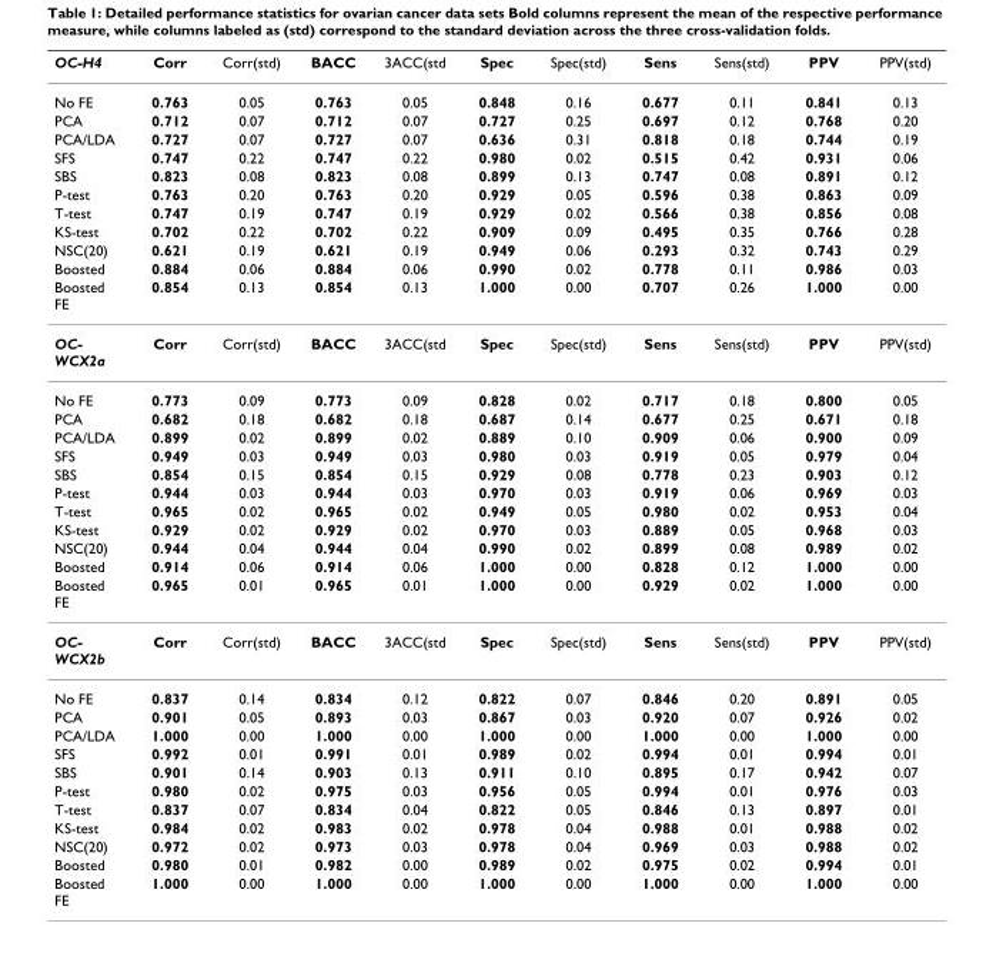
<table><thead><tr><td>OC-H4</td><td>Corr</td><td>Corr(std)</td><td>BACC</td><td>3ACC(std</td><td>Spec</td><td>Spec(std)</td><td>Sens</td><td>Sens(std)</td><td>PPV</td><td>PPV(std)</td></tr></thead><tbody><tr><td>No FE</td><td>0.763</td><td>0.05</td><td>0.763</td><td>0.05</td><td>0.848</td><td>0.16</td><td>0.677</td><td>0.11</td><td>0.841</td><td>0.13</td></tr><tr><td>PCA</td><td>0.712</td><td>0.07</td><td>0.712</td><td>0.07</td><td>0.727</td><td>0.25</td><td>0.697</td><td>0.12</td><td>0.768</td><td>0.20</td></tr><tr><td>PCA/LDA</td><td>0.727</td><td>0.07</td><td>0.727</td><td>0.07</td><td>0.636</td><td>0.31</td><td>0.818</td><td>0.18</td><td>0.744</td><td>0.19</td></tr><tr><td>SFS</td><td>0.747</td><td>0.22</td><td>0.747</td><td>0.22</td><td>0.980</td><td>0.02</td><td>0.515</td><td>0.42</td><td>0.931</td><td>0.06</td></tr><tr><td>SBS</td><td>0.823</td><td>0.08</td><td>0.823</td><td>0.08</td><td>0.899</td><td>0.13</td><td>0.747</td><td>0.08</td><td>0.891</td><td>0.12</td></tr><tr><td>P-test</td><td>0.763</td><td>0.20</td><td>0.763</td><td>0.20</td><td>0.929</td><td>0.05</td><td>0.596</td><td>0.38</td><td>0.863</td><td>0.09</td></tr><tr><td>T-test</td><td>0.747</td><td>0.19</td><td>0.747</td><td>0.19</td><td>0.929</td><td>0.02</td><td>0.566</td><td>0.38</td><td>0.856</td><td>0.08</td></tr><tr><td>KS-test</td><td>0.702</td><td>0.22</td><td>0.702</td><td>0.22</td><td>0.909</td><td>0.09</td><td>0.495</td><td>0.35</td><td>0.766</td><td>0.28</td></tr><tr><td>NSC(20)</td><td>0.621</td><td>0.19</td><td>0.621</td><td>0.19</td><td>0.949</td><td>0.06</td><td>0.293</td><td>0.32</td><td>0.743</td><td>0.29</td></tr><tr><td>Boosted</td><td>0.884</td><td>0.06</td><td>0.884</td><td>0.06</td><td>0.990</td><td>0.02</td><td>0.778</td><td>0.11</td><td>0.986</td><td>0.03</td></tr><tr><td>Boosted FE</td><td>0.854</td><td>0.13</td><td>0.854</td><td>0.13</td><td>1.000</td><td>0.00</td><td>0.707</td><td>0.26</td><td>1.000</td><td>0.00</td></tr><tr><td>OC- WCX2a</td><td>Corr</td><td>Corr(std)</td><td>BACC</td><td>3ACC(std</td><td>Spec</td><td>Spec(std)</td><td>Sens</td><td>Sens(std)</td><td>PPV</td><td>PPV(std)</td></tr><tr><td>No FE</td><td>0.773</td><td>0.09</td><td>0.773</td><td>0.09</td><td>0.828</td><td>0.02</td><td>0.717</td><td>0.18</td><td>0.800</td><td>0.05</td></tr><tr><td>PCA</td><td>0.682</td><td>0.18</td><td>0.682</td><td>0.18</td><td>0.687</td><td>0.14</td><td>0.677</td><td>0.25</td><td>0.671</td><td>0.18</td></tr><tr><td>PCA/LDA</td><td>0.899</td><td>0.02</td><td>0.899</td><td>0.02</td><td>0.889</td><td>0.10</td><td>0.909</td><td>0.06</td><td>0.900</td><td>0.09</td></tr><tr><td>SFS</td><td>0.949</td><td>0.03</td><td>0.949</td><td>0.03</td><td>0.980</td><td>0.03</td><td>0.919</td><td>0.05</td><td>0.979</td><td>0.04</td></tr><tr><td>SBS</td><td>0.854</td><td>0.15</td><td>0.854</td><td>0.15</td><td>0.929</td><td>0.08</td><td>0.778</td><td>0.23</td><td>0.903</td><td>0.12</td></tr><tr><td>P-test</td><td>0.944</td><td>0.03</td><td>0.944</td><td>0.03</td><td>0.970</td><td>0.03</td><td>0.919</td><td>0.06</td><td>0.969</td><td>0.03</td></tr><tr><td>T-test</td><td>0.965</td><td>0.02</td><td>0.965</td><td>0.02</td><td>0.949</td><td>0.05</td><td>0.980</td><td>0.02</td><td>0.953</td><td>0.04</td></tr><tr><td>KS-test</td><td>0.929</td><td>0.02</td><td>0.929</td><td>0.02</td><td>0.970</td><td>0.03</td><td>0.889</td><td>0.05</td><td>0.968</td><td>0.03</td></tr><tr><td>NSC(20)</td><td>0.944</td><td>0.04</td><td>0.944</td><td>0.04</td><td>0.990</td><td>0.02</td><td>0.899</td><td>0.08</td><td>0.989</td><td>0.02</td></tr><tr><td>Boosted</td><td>0.914</td><td>0.06</td><td>0.914</td><td>0.06</td><td>1.000</td><td>0.00</td><td>0.828</td><td>0.12</td><td>1.000</td><td>0.00</td></tr><tr><td>Boosted FE</td><td>0.965</td><td>0.01</td><td>0.965</td><td>0.01</td><td>1.000</td><td>0.00</td><td>0.929</td><td>0.02</td><td>1.000</td><td>0.00</td></tr><tr><td>OC- WCX2b</td><td>Corr</td><td>Corr(std)</td><td>BACC</td><td>3ACC(std</td><td>Spec</td><td>Spec(std)</td><td>Sens</td><td>Sens(std)</td><td>PPV</td><td>PPV(std)</td></tr><tr><td>No FE</td><td>0.837</td><td>0.14</td><td>0.834</td><td>0.12</td><td>0.822</td><td>0.07</td><td>0.846</td><td>0.20</td><td>0.891</td><td>0.05</td></tr><tr><td>PCA</td><td>0.901</td><td>0.05</td><td>0.893</td><td>0.03</td><td>0.867</td><td>0.03</td><td>0.920</td><td>0.07</td><td>0.926</td><td>0.02</td></tr><tr><td>PCA/LDA</td><td>1.000</td><td>0.00</td><td>1.000</td><td>0.00</td><td>1.000</td><td>0.00</td><td>1.000</td><td>0.00</td><td>1.000</td><td>0.00</td></tr><tr><td>SFS</td><td>0.992</td><td>0.01</td><td>0.991</td><td>0.01</td><td>0.989</td><td>0.02</td><td>0.994</td><td>0.01</td><td>0.994</td><td>0.01</td></tr><tr><td>SBS</td><td>0.901</td><td>0.14</td><td>0.903</td><td>0.13</td><td>0.911</td><td>0.10</td><td>0.895</td><td>0.17</td><td>0.942</td><td>0.07</td></tr><tr><td>P-test</td><td>0.980</td><td>0.02</td><td>0.975</td><td>0.03</td><td>0.956</td><td>0.05</td><td>0.994</td><td>0.01</td><td>0.976</td><td>0.03</td></tr><tr><td>T-test</td><td>0.837</td><td>0.07</td><td>0.834</td><td>0.04</td><td>0.822</td><td>0.05</td><td>0.846</td><td>0.13</td><td>0.897</td><td>0.01</td></tr><tr><td>KS-test</td><td>0.984</td><td>0.02</td><td>0.983</td><td>0.02</td><td>0.978</td><td>0.04</td><td>0.988</td><td>0.01</td><td>0.988</td><td>0.02</td></tr><tr><td>NSC(20)</td><td>0.972</td><td>0.02</td><td>0.973</td><td>0.03</td><td>0.978</td><td>0.04</td><td>0.969</td><td>0.03</td><td>0.988</td><td>0.02</td></tr><tr><td>Boosted</td><td>0.980</td><td>0.01</td><td>0.982</td><td>0.00</td><td>0.989</td><td>0.02</td><td>0.975</td><td>0.02</td><td>0.994</td><td>0.01</td></tr><tr><td>Boosted FE</td><td>1.000</td><td>0.00</td><td>1.000</td><td>0.00</td><td>1.000</td><td>0.00</td><td>1.000</td><td>0.00</td><td>1.000</td><td>0.00</td></tr></tbody></table>